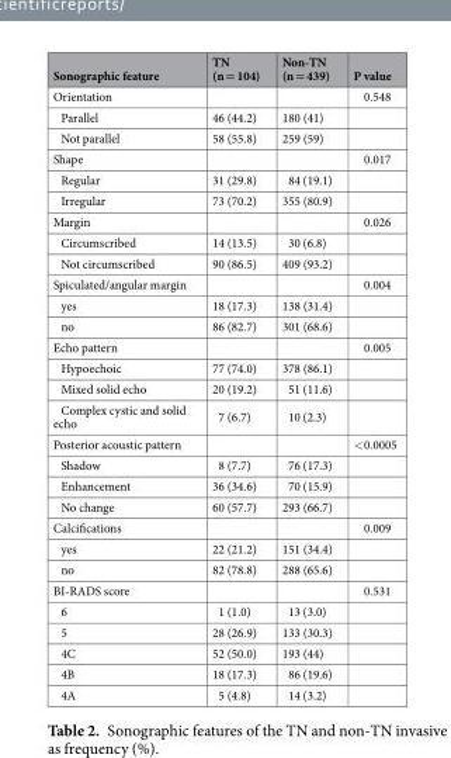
<table><thead><tr><td>Sonographic feature</td><td>TN (n = 104)</td><td>Non-TN (n = 439)</td><td>P value</td></tr></thead><tbody><tr><td>Orientation</td><td></td><td></td><td>0.548</td></tr><tr><td>Parallel</td><td>46 (44.2)</td><td>180 (41)</td><td></td></tr><tr><td>Not parallel</td><td>58 (55.8)</td><td>259 (59)</td><td></td></tr><tr><td>Shape</td><td></td><td></td><td>0.017</td></tr><tr><td>Regular</td><td>31 (29.8)</td><td>84 (19.1)</td><td></td></tr><tr><td>Irregular</td><td>73 (70.2)</td><td>355 (80.9)</td><td></td></tr><tr><td>Margin</td><td></td><td></td><td>0.026</td></tr><tr><td>Circumscribed</td><td>14 (13.5)</td><td>30 (6.8)</td><td></td></tr><tr><td>Not circumscribed</td><td>90 (86.5)</td><td>409 (93.2)</td><td></td></tr><tr><td>Spiculated/angular margin</td><td></td><td></td><td>0.004</td></tr><tr><td>yes</td><td>18 (17.3)</td><td>138 (31.4)</td><td></td></tr><tr><td>no</td><td>86 (82.7)</td><td>301 (68.6)</td><td></td></tr><tr><td>Echo pattern</td><td></td><td></td><td>0.005</td></tr><tr><td>Hypoechoic</td><td>77 (74.0)</td><td>378 (86.1)</td><td></td></tr><tr><td>Mixed solid echo</td><td>20 (19.2)</td><td>51 (11.6)</td><td></td></tr><tr><td>Complex cystic and solid echo</td><td>7 (6.7)</td><td>10 (2.3)</td><td></td></tr><tr><td>Posterior acoustic pattern</td><td></td><td></td><td>&lt;0.0005</td></tr><tr><td>Shadow</td><td>8 (7.7)</td><td>76 (17.3)</td><td></td></tr><tr><td>Enhancement</td><td>36 (34.6)</td><td>70 (15.9)</td><td></td></tr><tr><td>No change</td><td>60 (57.7)</td><td>293 (66.7)</td><td></td></tr><tr><td>Calcifications</td><td></td><td></td><td>0.009</td></tr><tr><td>yes</td><td>22 (21.2)</td><td>151 (34.4)</td><td></td></tr><tr><td>no</td><td>82 (78.8)</td><td>288 (65.6)</td><td></td></tr><tr><td>BI-RADS score</td><td></td><td></td><td>0.531</td></tr><tr><td>6</td><td>1 (1.0)</td><td>13 (3.0)</td><td></td></tr><tr><td>5</td><td>28 (26.9)</td><td>133 (30.3)</td><td></td></tr><tr><td>4C</td><td>52 (50.0)</td><td>193 (44)</td><td></td></tr><tr><td>4B</td><td>18 (17.3)</td><td>86 (19.6)</td><td></td></tr><tr><td>4A</td><td>5 (4.8)</td><td>14 (3.2)</td><td></td></tr></tbody></table>